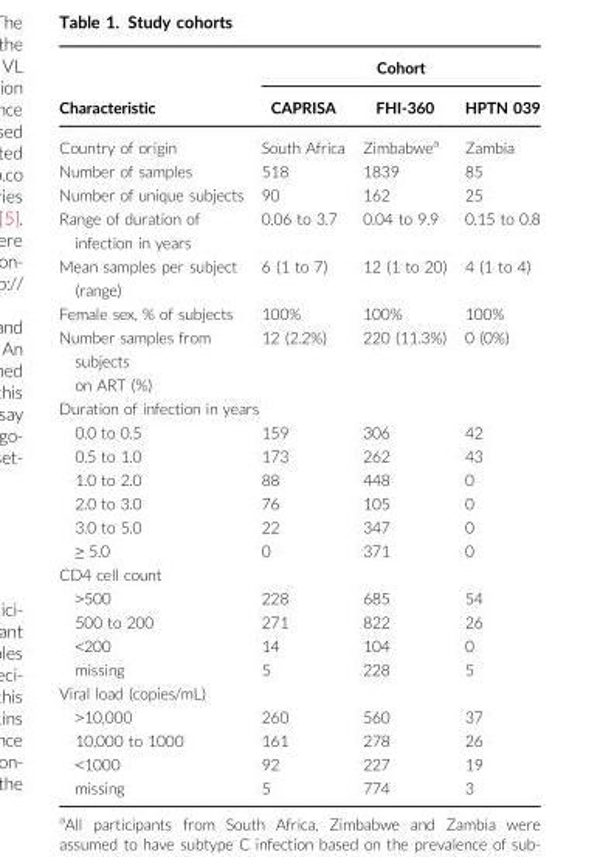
<table><thead><tr><td rowspan="2">Characteristic</td><td colspan="3">Cohort</td></tr><tr><td>CAPRISA</td><td>FHI-360</td><td>HPTN 039</td></tr></thead><tbody><tr><td>Country of origin</td><td>South Africa</td><td>Zimbabwe<sup>a</sup></td><td>Zambia</td></tr><tr><td>Number of samples</td><td>518</td><td>1839</td><td>85</td></tr><tr><td>Number of unique subjects</td><td>90</td><td>162</td><td>25</td></tr><tr><td>Range of duration of infection in years</td><td>0.06 to 3.7</td><td>0.04 to 9.9</td><td>0.15 to 0.8</td></tr><tr><td>Mean samples per subject (range)</td><td>6 (1 to 7)</td><td>12 (1 to 20)</td><td>4 (1 to 4)</td></tr><tr><td>Female sex, % of subjects</td><td>100%</td><td>100%</td><td>100%</td></tr><tr><td>Number samples from subjects on ART (%)</td><td>12 (2.2%)</td><td>220 (11.3%)</td><td>0 (0%)</td></tr><tr><td colspan="4">Duration of infection in years</td></tr><tr><td>0.0 to 0.5</td><td>159</td><td>306</td><td>42</td></tr><tr><td>0.5 to 1.0</td><td>173</td><td>262</td><td>43</td></tr><tr><td>1.0 to 2.0</td><td>88</td><td>448</td><td>0</td></tr><tr><td>2.0 to 3.0</td><td>76</td><td>105</td><td>0</td></tr><tr><td>3.0 to 5.0</td><td>22</td><td>347</td><td>0</td></tr><tr><td>≥ 5.0</td><td>0</td><td>371</td><td>0</td></tr><tr><td colspan="4">CD4 cell count</td></tr><tr><td>&gt;500</td><td>228</td><td>685</td><td>54</td></tr><tr><td>500 to 200</td><td>271</td><td>822</td><td>26</td></tr><tr><td>&lt;200</td><td>14</td><td>104</td><td>0</td></tr><tr><td>missing</td><td>5</td><td>228</td><td>5</td></tr><tr><td colspan="4">Viral load (copies/mL)</td></tr><tr><td>&gt;10,000</td><td>260</td><td>560</td><td>37</td></tr><tr><td>10,000 to 1000</td><td>161</td><td>278</td><td>26</td></tr><tr><td>&lt;1000</td><td>92</td><td>227</td><td>19</td></tr><tr><td>missing</td><td>5</td><td>774</td><td>3</td></tr></tbody></table>